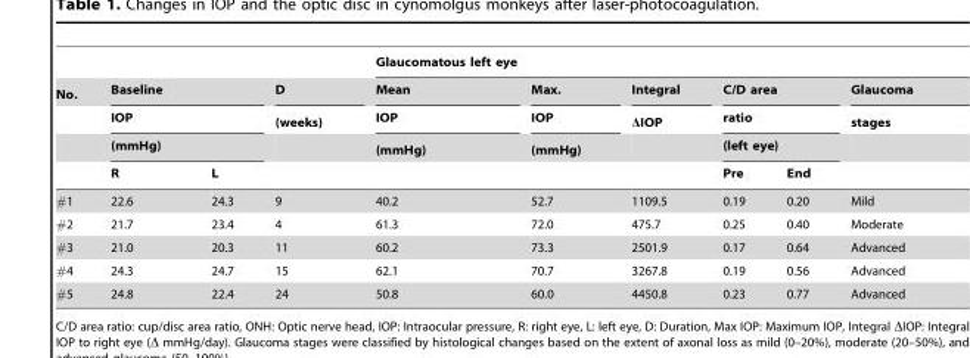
<table><thead><tr><td rowspan="5">No.</td><td></td><td></td><td rowspan="5">D (weeks)</td><td colspan="6">Glaucomatous left eye</td></tr><tr><td rowspan="3" colspan="2">Baseline IOP (mmHg)</td><td rowspan="4">Mean IOP (mmHg)</td><td rowspan="4">Max. IOP (mmHg)</td><td rowspan="4">Integral ΔIOP</td><td rowspan="3" colspan="2">C/D area ratio (left eye)</td><td rowspan="4">Glaucoma stages</td></tr><tr></tr><tr></tr><tr><td>R</td><td>L</td><td>Pre</td><td>End</td></tr></thead><tbody><tr><td>#1</td><td>22.6</td><td>24.3</td><td>9</td><td>40.2</td><td>52.7</td><td>1109.5</td><td>0.19</td><td>0.20</td><td>Mild</td></tr><tr><td>#2</td><td>21.7</td><td>23.4</td><td>4</td><td>61.3</td><td>72.0</td><td>475.7</td><td>0.25</td><td>0.40</td><td>Moderate</td></tr><tr><td>#3</td><td>21.0</td><td>20.3</td><td>11</td><td>60.2</td><td>73.3</td><td>2501.9</td><td>0.17</td><td>0.64</td><td>Advanced</td></tr><tr><td>#4</td><td>24.3</td><td>24.7</td><td>15</td><td>62.1</td><td>70.7</td><td>3267.8</td><td>0.19</td><td>0.56</td><td>Advanced</td></tr><tr><td>#5</td><td>24.8</td><td>22.4</td><td>24</td><td>50.8</td><td>60.0</td><td>4450.8</td><td>0.23</td><td>0.77</td><td>Advanced</td></tr></tbody></table>